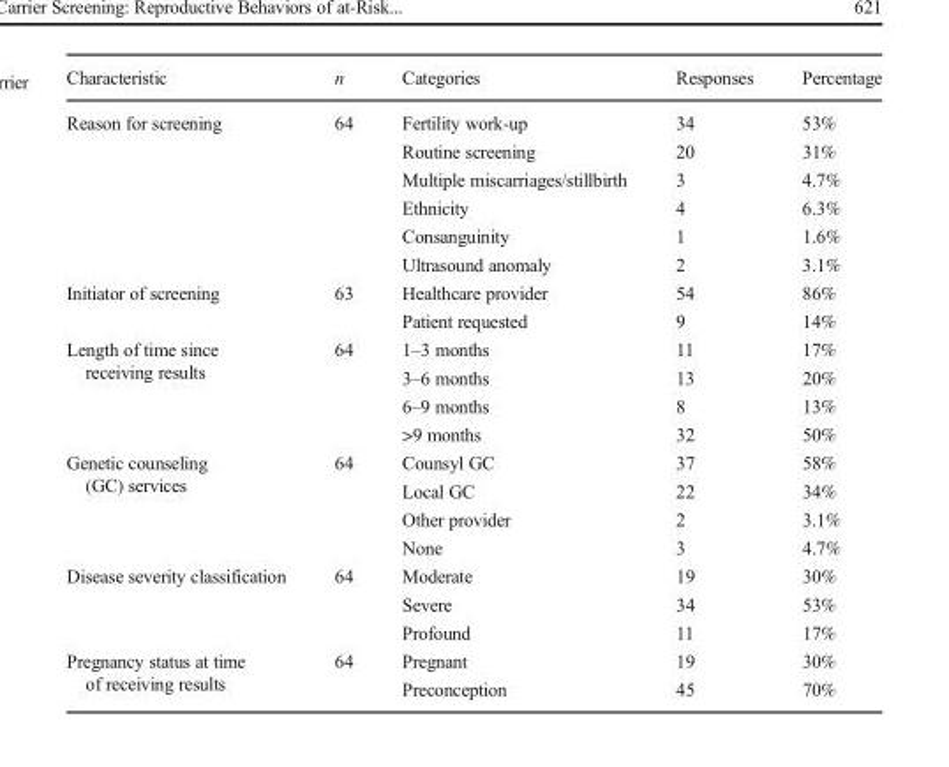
<table><thead><tr><td>Characteristic</td><td>n</td><td>Categories</td><td>Responses</td><td>Percentage</td></tr></thead><tbody><tr><td rowspan="6">Reason for screening</td><td rowspan="6">64</td><td>Fertility work-up</td><td>34</td><td>53%</td></tr><tr><td>Routine screening</td><td>20</td><td>31%</td></tr><tr><td>Multiple miscarriages/stillbirth</td><td>3</td><td>4.7%</td></tr><tr><td>Ethnicity</td><td>4</td><td>6.3%</td></tr><tr><td>Consanguinity</td><td>1</td><td>1.6%</td></tr><tr><td>Ultrasound anomaly</td><td>2</td><td>3.1%</td></tr><tr><td rowspan="2">Initiator of screening</td><td rowspan="2">63</td><td>Healthcare provider</td><td>54</td><td>86%</td></tr><tr><td>Patient requested</td><td>9</td><td>14%</td></tr><tr><td rowspan="4">Length of time since receiving results</td><td rowspan="4">64</td><td>1–3 months</td><td>11</td><td>17%</td></tr><tr><td>3–6 months</td><td>13</td><td>20%</td></tr><tr><td>6–9 months</td><td>8</td><td>13%</td></tr><tr><td>&gt;9 months</td><td>32</td><td>50%</td></tr><tr><td rowspan="4">Genetic counseling (GC) services</td><td rowspan="4">64</td><td>Counsyl GC</td><td>37</td><td>58%</td></tr><tr><td>Local GC</td><td>22</td><td>34%</td></tr><tr><td>Other provider</td><td>2</td><td>3.1%</td></tr><tr><td>None</td><td>3</td><td>4.7%</td></tr><tr><td rowspan="3">Disease severity classification</td><td rowspan="3">64</td><td>Moderate</td><td>19</td><td>30%</td></tr><tr><td>Severe</td><td>34</td><td>53%</td></tr><tr><td>Profound</td><td>11</td><td>17%</td></tr><tr><td rowspan="2">Pregnancy status at time of receiving results</td><td rowspan="2">64</td><td>Pregnant</td><td>19</td><td>30%</td></tr><tr><td>Preconception</td><td>45</td><td>70%</td></tr></tbody></table>